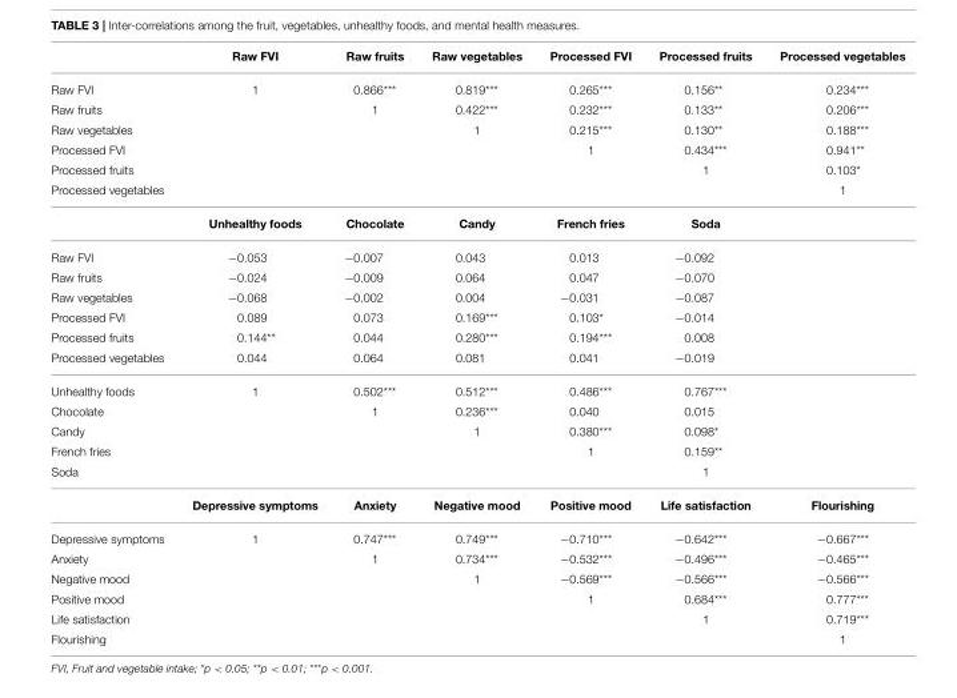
<table><thead><tr><td></td><td>Raw FVI</td><td>Raw fruits</td><td>Raw vegetables</td><td>Processed FVI</td><td>Processed fruits</td><td>Processed vegetables</td></tr></thead><tbody><tr><td>Raw FVI</td><td>1</td><td>0.866***</td><td>0.819***</td><td>0.265***</td><td>0.156**</td><td>0.234***</td></tr><tr><td>Raw fruits</td><td></td><td>1</td><td>0.422***</td><td>0.232***</td><td>0.133**</td><td>0.206***</td></tr><tr><td>Raw vegetables</td><td></td><td></td><td>1</td><td>0.215***</td><td>0.130**</td><td>0.188***</td></tr><tr><td>Processed FVI</td><td></td><td></td><td></td><td>1</td><td>0.434***</td><td>0.941**</td></tr><tr><td>Processed fruits</td><td></td><td></td><td></td><td></td><td>1</td><td>0.103*</td></tr><tr><td rowspan="2">Processed vegetables</td><td></td><td></td><td></td><td></td><td></td><td>1</td></tr><tr><td>Unhealthy foods</td><td>Chocolate</td><td>Candy</td><td>French fries</td><td>Soda</td><td></td></tr><tr><td>Raw FVI</td><td>−0.053</td><td>−0.007</td><td>0.043</td><td>0.013</td><td>−0.092</td><td></td></tr><tr><td>Raw fruits</td><td>−0.024</td><td>−0.009</td><td>0.064</td><td>0.047</td><td>−0.070</td><td></td></tr><tr><td>Raw vegetables</td><td>−0.068</td><td>−0.002</td><td>0.004</td><td>−0.031</td><td>−0.087</td><td></td></tr><tr><td>Processed FVI</td><td>0.089</td><td>0.073</td><td>0.169***</td><td>0.103*</td><td>−0.014</td><td></td></tr><tr><td>Processed fruits</td><td>0.144**</td><td>0.044</td><td>0.280***</td><td>0.194***</td><td>0.008</td><td></td></tr><tr><td>Processed vegetables</td><td>0.044</td><td>0.064</td><td>0.081</td><td>0.041</td><td>−0.019</td><td></td></tr><tr><td>Unhealthy foods</td><td>1</td><td>0.502***</td><td>0.512***</td><td>0.486***</td><td>0.767***</td><td></td></tr><tr><td>Chocolate</td><td></td><td>1</td><td>0.236***</td><td>0.040</td><td>0.015</td><td></td></tr><tr><td>Candy</td><td></td><td></td><td>1</td><td>0.380***</td><td>0.098*</td><td></td></tr><tr><td>French fries</td><td></td><td></td><td></td><td>1</td><td>0.159**</td><td></td></tr><tr><td rowspan="2">Soda</td><td></td><td></td><td></td><td></td><td>1</td><td></td></tr><tr><td>Depressive symptoms</td><td>Anxiety</td><td>Negative mood</td><td>Positive mood</td><td>Life satisfaction</td><td>Flourishing</td></tr><tr><td>Depressive symptoms</td><td>1</td><td>0.747***</td><td>0.749***</td><td>−0.710***</td><td>−0.642***</td><td>−0.667***</td></tr><tr><td>Anxiety</td><td></td><td>1</td><td>0.734***</td><td>−0.532***</td><td>−0.496***</td><td>−0.465***</td></tr><tr><td>Negative mood</td><td></td><td></td><td>1</td><td>−0.569***</td><td>−0.566***</td><td>−0.566***</td></tr><tr><td>Positive mood</td><td></td><td></td><td></td><td>1</td><td>0.684***</td><td>0.777***</td></tr><tr><td>Life satisfaction</td><td></td><td></td><td></td><td></td><td>1</td><td>0.719***</td></tr><tr><td>Flourishing</td><td></td><td></td><td></td><td></td><td></td><td>1</td></tr></tbody></table>